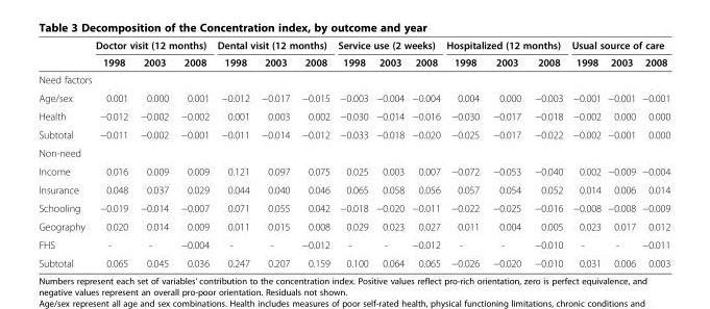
<table><thead><tr><td rowspan="2"></td><td colspan="3">Doctor visit (12 months)</td><td colspan="3">Dental visit (12 months)</td><td colspan="3">Service use (2 weeks)</td><td colspan="3">Hospitalized (12 months)</td><td colspan="3">Usual source of care</td></tr><tr><td>1998</td><td>2003</td><td>2008</td><td>1998</td><td>2003</td><td>2008</td><td>1998</td><td>2003</td><td>2008</td><td>1998</td><td>2003</td><td>2008</td><td>1998</td><td>2003</td><td>2008</td></tr></thead><tbody><tr><td colspan="16">Need factors</td></tr><tr><td>Age/sex</td><td>0.001</td><td>0.000</td><td>0.001</td><td>−0.012</td><td>−0.017</td><td>−0.015</td><td>−0.003</td><td>−0.004</td><td>−0.004</td><td>0.004</td><td>0.000</td><td>−0.003</td><td>−0.001</td><td>−0.001</td><td>−0.001</td></tr><tr><td>Health</td><td>−0.012</td><td>−0.002</td><td>−0.002</td><td>0.001</td><td>0.003</td><td>0.002</td><td>−0.030</td><td>−0.014</td><td>−0.016</td><td>−0.030</td><td>−0.017</td><td>−0.018</td><td>−0.002</td><td>0.000</td><td>0.000</td></tr><tr><td>Subtotal</td><td>−0.011</td><td>−0.002</td><td>−0.001</td><td>−0.011</td><td>−0.014</td><td>−0.012</td><td>−0.033</td><td>−0.018</td><td>−0.020</td><td>−0.025</td><td>−0.017</td><td>−0.022</td><td>−0.002</td><td>−0.001</td><td>0.000</td></tr><tr><td colspan="16">Non-need</td></tr><tr><td>Income</td><td>0.016</td><td>0.009</td><td>0.009</td><td>0.121</td><td>0.097</td><td>0.075</td><td>0.025</td><td>0.003</td><td>0.007</td><td>−0.072</td><td>−0.053</td><td>−0.040</td><td>0.002</td><td>−0.009</td><td>−0.004</td></tr><tr><td>Insurance</td><td>0.048</td><td>0.037</td><td>0.029</td><td>0.044</td><td>0.040</td><td>0.046</td><td>0.065</td><td>0.058</td><td>0.056</td><td>0.057</td><td>0.054</td><td>0.052</td><td>0.014</td><td>0.006</td><td>0.014</td></tr><tr><td>Schooling</td><td>−0.019</td><td>−0.014</td><td>−0.007</td><td>0.071</td><td>0.055</td><td>0.042</td><td>−0.018</td><td>−0.020</td><td>−0.011</td><td>−0.022</td><td>−0.025</td><td>−0.016</td><td>−0.008</td><td>−0.008</td><td>−0.009</td></tr><tr><td>Geography</td><td>0.020</td><td>0.014</td><td>0.009</td><td>0.011</td><td>0.015</td><td>0.008</td><td>0.029</td><td>0.023</td><td>0.027</td><td>0.011</td><td>0.004</td><td>0.005</td><td>0.023</td><td>0.017</td><td>0.012</td></tr><tr><td>FHS</td><td>-</td><td>-</td><td>−0.004</td><td>-</td><td>-</td><td>−0.012</td><td>-</td><td>-</td><td>−0.012</td><td>-</td><td>-</td><td>−0.010</td><td>-</td><td>-</td><td>−0.011</td></tr><tr><td>Subtotal</td><td>0.065</td><td>0.045</td><td>0.036</td><td>0.247</td><td>0.207</td><td>0.159</td><td>0.100</td><td>0.064</td><td>0.065</td><td>−0.026</td><td>−0.020</td><td>−0.010</td><td>0.031</td><td>0.006</td><td>0.003</td></tr></tbody></table>